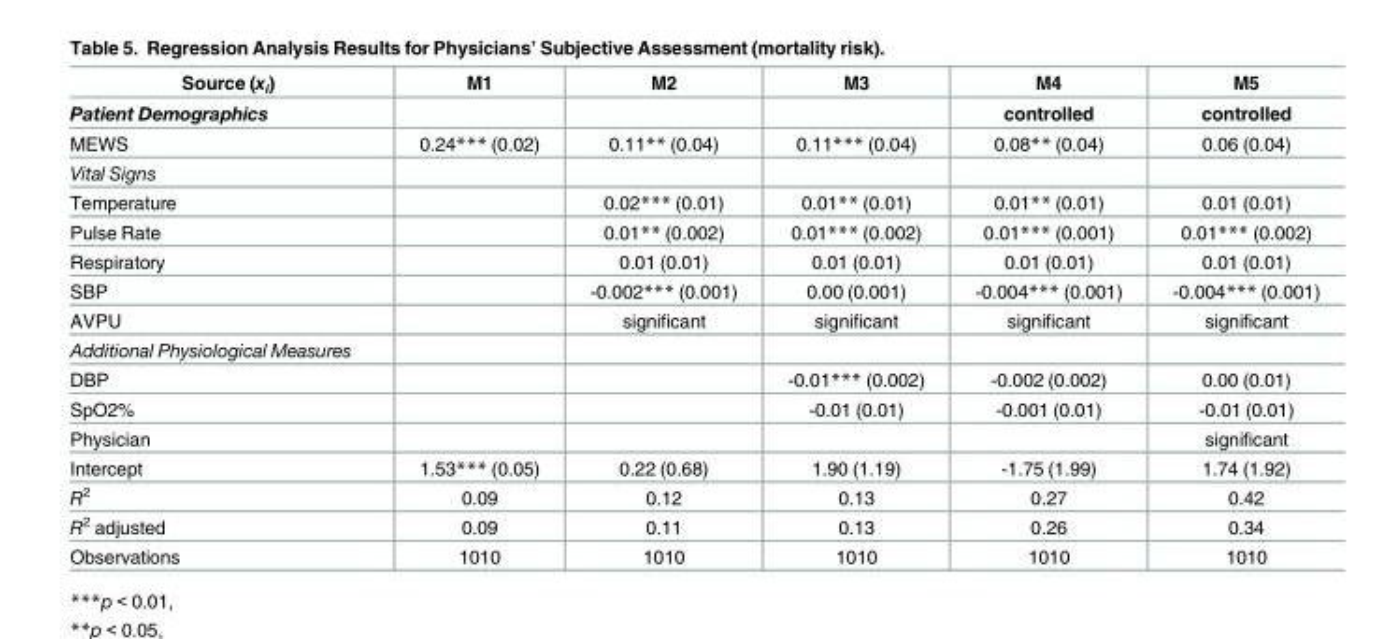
<table><thead><tr><td rowspan="2">Source (x<sub>i</sub>) Patient Demographics</td><td rowspan="2">M1</td><td rowspan="2">M2</td><td rowspan="2">M3</td><td rowspan="2">M4 controlled</td><td rowspan="2">M5 controlled</td></tr><tr></tr></thead><tbody><tr><td>MEWS</td><td>0.24*** (0.02)</td><td>0.11** (0.04)</td><td>0.11*** (0.04)</td><td>0.08** (0.04)</td><td>0.06 (0.04)</td></tr><tr><td colspan="6">Vital Signs</td></tr><tr><td>Temperature</td><td></td><td>0.02*** (0.01)</td><td>0.01** (0.01)</td><td>0.01** (0.01)</td><td>0.01 (0.01)</td></tr><tr><td>Pulse Rate</td><td></td><td>0.01** (0.002)</td><td>0.01*** (0.002)</td><td>0.01*** (0.001)</td><td>0.01*** (0.002)</td></tr><tr><td>Respiratory</td><td></td><td>0.01 (0.01)</td><td>0.01 (0.01)</td><td>0.01 (0.01)</td><td>0.01 (0.01)</td></tr><tr><td>SBP</td><td></td><td>-0.002*** (0.001)</td><td>0.00 (0.001)</td><td>-0.004*** (0.001)</td><td>-0.004*** (0.001)</td></tr><tr><td>AVPU</td><td></td><td>significant</td><td>significant</td><td>significant</td><td>significant</td></tr><tr><td colspan="6">Additional Physiological Measures</td></tr><tr><td>DBP</td><td></td><td></td><td>-0.01*** (0.002)</td><td>-0.002 (0.002)</td><td>0.00 (0.01)</td></tr><tr><td>SpO2%</td><td></td><td></td><td>-0.01 (0.01)</td><td>-0.001 (0.01)</td><td>-0.01 (0.01)</td></tr><tr><td>Physician</td><td></td><td></td><td></td><td></td><td>significant</td></tr><tr><td>Intercept</td><td>1.53*** (0.05)</td><td>0.22 (0.68)</td><td>1.90 (1.19)</td><td>-1.75 (1.99)</td><td>1.74 (1.92)</td></tr><tr><td>R<sup>2</sup></td><td>0.09</td><td>0.12</td><td>0.13</td><td>0.27</td><td>0.42</td></tr><tr><td>R<sup>2</sup> adjusted</td><td>0.09</td><td>0.11</td><td>0.13</td><td>0.26</td><td>0.34</td></tr><tr><td>Observations</td><td>1010</td><td>1010</td><td>1010</td><td>1010</td><td>1010</td></tr></tbody></table>